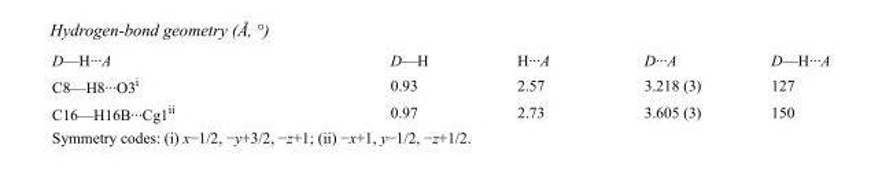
<table><tbody><tr><td>D—H···A</td><td>D—H</td><td>H···A</td><td>D···A</td><td>D—H···A</td></tr><tr><td>C8—H8···O3<sup>i</sup></td><td>0.93</td><td>2.57</td><td>3.218 (3)</td><td>127</td></tr><tr><td>C16—H16B···Cg1<sup>ii</sup></td><td>0.97</td><td>2.73</td><td>3.605 (3)</td><td>150</td></tr></tbody></table>